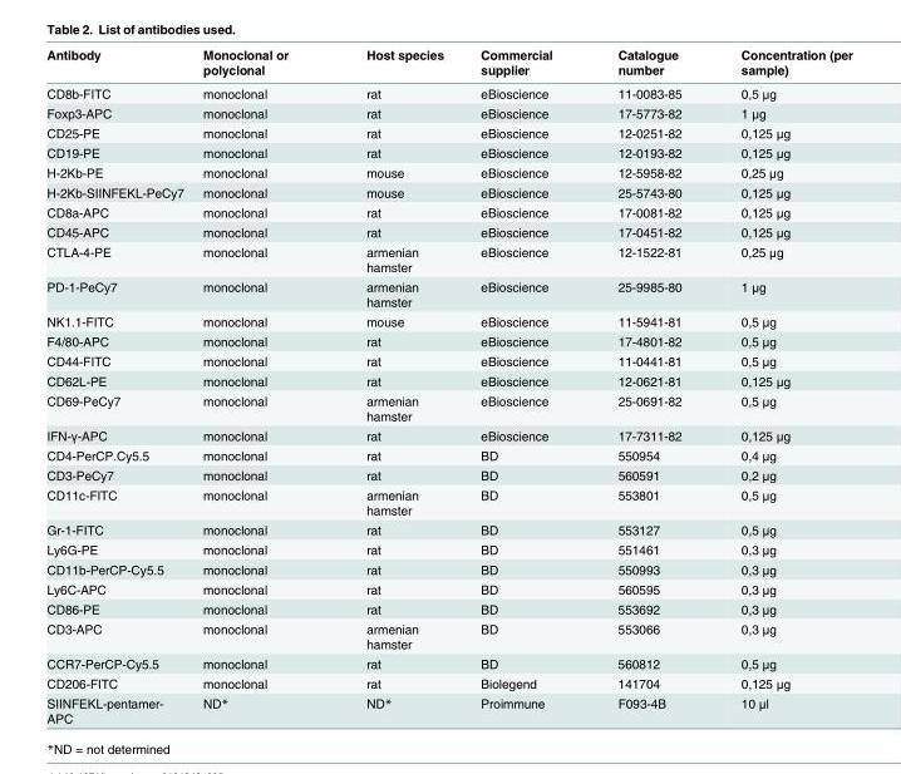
<table><thead><tr><td>Antibody</td><td>Monoclonal or polyclonal</td><td>Host species</td><td>Commercial supplier</td><td>Catalogue number</td><td>Concentration (per sample)</td></tr></thead><tbody><tr><td>CD8b-FITC</td><td>monoclonal</td><td>rat</td><td>eBioscience</td><td>11-0083-85</td><td>0,5 μg</td></tr><tr><td>Foxp3-APC</td><td>monoclonal</td><td>rat</td><td>eBioscience</td><td>17-5773-82</td><td>1 μg</td></tr><tr><td>CD25-PE</td><td>monoclonal</td><td>rat</td><td>eBioscience</td><td>12-0251-82</td><td>0,125 μg</td></tr><tr><td>CD19-PE</td><td>monoclonal</td><td>rat</td><td>eBioscience</td><td>12-0193-82</td><td>0,125 μg</td></tr><tr><td>H-2Kb-PE</td><td>monoclonal</td><td>mouse</td><td>eBioscience</td><td>12-5958-82</td><td>0,25 μg</td></tr><tr><td>H-2Kb-SIINFEKL-PeCy7</td><td>monoclonal</td><td>mouse</td><td>eBioscience</td><td>25-5743-80</td><td>0,125 μg</td></tr><tr><td>CD8a-APC</td><td>monoclonal</td><td>rat</td><td>eBioscience</td><td>17-0081-82</td><td>0,125 μg</td></tr><tr><td>CD45-APC</td><td>monoclonal</td><td>rat</td><td>eBioscience</td><td>17-0451-82</td><td>0,125 μg</td></tr><tr><td>CTLA-4-PE</td><td>monoclonal</td><td>armenian hamster</td><td>eBioscience</td><td>12-1522-81</td><td>0,25 μg</td></tr><tr><td>PD-1-PeCy7</td><td>monoclonal</td><td>armenian hamster</td><td>eBioscience</td><td>25-9985-80</td><td>1 μg</td></tr><tr><td>NK1.1-FITC</td><td>monoclonal</td><td>mouse</td><td>eBioscience</td><td>11-5941-81</td><td>0,5 μg</td></tr><tr><td>F4/80-APC</td><td>monoclonal</td><td>rat</td><td>eBioscience</td><td>17-4801-82</td><td>0,5 μg</td></tr><tr><td>CD44-FITC</td><td>monoclonal</td><td>rat</td><td>eBioscience</td><td>11-0441-81</td><td>0,5 μg</td></tr><tr><td>CD62L-PE</td><td>monoclonal</td><td>rat</td><td>eBioscience</td><td>12-0621-81</td><td>0,125 μg</td></tr><tr><td>CD69-PeCy7</td><td>monoclonal</td><td>armenian hamster</td><td>eBioscience</td><td>25-0691-82</td><td>0,5 μg</td></tr><tr><td>IFN-γ-APC</td><td>monoclonal</td><td>rat</td><td>eBioscience</td><td>17-7311-82</td><td>0,125 μg</td></tr><tr><td>CD4-PerCP.Cy5.5</td><td>monoclonal</td><td>rat</td><td>BD</td><td>550954</td><td>0,4 μg</td></tr><tr><td>CD3-PeCy7</td><td>monoclonal</td><td>rat</td><td>BD</td><td>560591</td><td>0,2 μg</td></tr><tr><td>CD11c-FITC</td><td>monoclonal</td><td>armenian hamster</td><td>BD</td><td>553801</td><td>0,5 μg</td></tr><tr><td>Gr-1-FITC</td><td>monoclonal</td><td>rat</td><td>BD</td><td>553127</td><td>0,5 μg</td></tr><tr><td>Ly6G-PE</td><td>monoclonal</td><td>rat</td><td>BD</td><td>551461</td><td>0,3 μg</td></tr><tr><td>CD11b-PerCP-Cy5.5</td><td>monoclonal</td><td>rat</td><td>BD</td><td>550993</td><td>0,3 μg</td></tr><tr><td>Ly6C-APC</td><td>monoclonal</td><td>rat</td><td>BD</td><td>560595</td><td>0,3 μg</td></tr><tr><td>CD86-PE</td><td>monoclonal</td><td>rat</td><td>BD</td><td>553692</td><td>0,3 μg</td></tr><tr><td>CD3-APC</td><td>monoclonal</td><td>armenian hamster</td><td>BD</td><td>553066</td><td>0,3 μg</td></tr><tr><td>CCR7-PerCP-Cy5.5</td><td>monoclonal</td><td>rat</td><td>BD</td><td>560812</td><td>0,5 μg</td></tr><tr><td>CD206-FITC</td><td>monoclonal</td><td>rat</td><td>Biolegend</td><td>141704</td><td>0,125 μg</td></tr><tr><td>SIINFEKL-pentamer- APC</td><td>ND*</td><td>ND*</td><td>Proimmune</td><td>F093-4B</td><td>10 μl</td></tr></tbody></table>